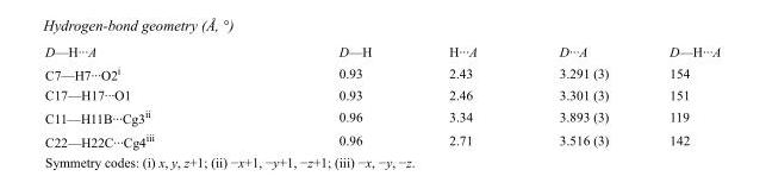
<table><tbody><tr><td>D—H···A</td><td>D—H</td><td>H···A</td><td>D···A</td><td>D—H···A</td></tr><tr><td>C7—H7···O2<sup>i</sup></td><td>0.93</td><td>2.43</td><td>3.291 (3)</td><td>154</td></tr><tr><td>C17—H17···O1</td><td>0.93</td><td>2.46</td><td>3.301 (3)</td><td>151</td></tr><tr><td>C11—H11B···Cg3<sup>ii</sup></td><td>0.96</td><td>3.34</td><td>3.893 (3)</td><td>119</td></tr><tr><td>C22—H22C···Cg4<sup>iii</sup></td><td>0.96</td><td>2.71</td><td>3.516 (3)</td><td>142</td></tr></tbody></table>